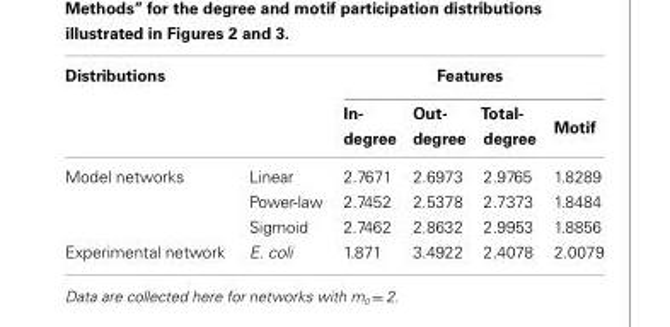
<table><thead><tr><td colspan="2">Distributions</td><td colspan="4">Features</td></tr><tr><td></td><td></td><td>In- degree</td><td>Out- degree</td><td>Total- degree</td><td>Motif</td></tr></thead><tbody><tr><td rowspan="3">Model networks</td><td>Linear</td><td>2.7671</td><td>2.6973</td><td>2.9765</td><td>1.8289</td></tr><tr><td>Power-law</td><td>2.7452</td><td>2.5378</td><td>2.7373</td><td>1.8484</td></tr><tr><td>Sigmoid</td><td>2.7462</td><td>2.8632</td><td>2.9953</td><td>1.8856</td></tr><tr><td>Experimental network</td><td>E. coli</td><td>1.871</td><td>3.4922</td><td>2.4078</td><td>2.0079</td></tr></tbody></table>